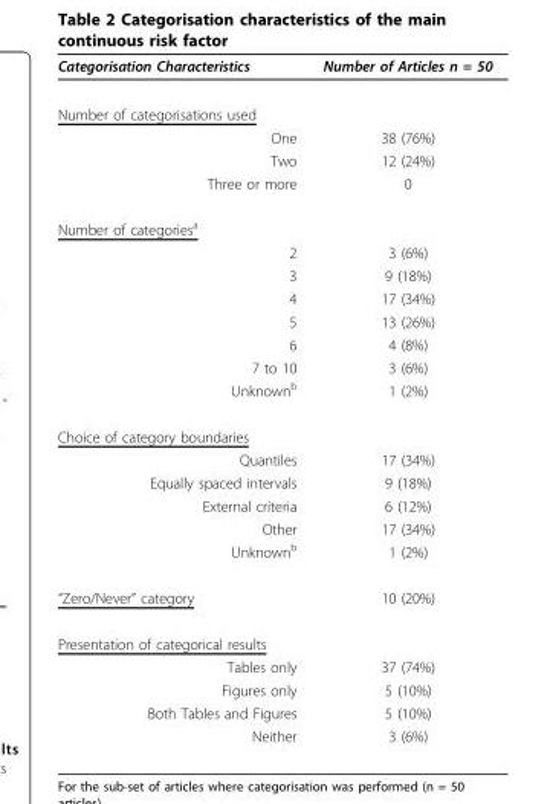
<table><thead><tr><td>Categorisation Characteristics</td><td>Number of Articles n = 50</td></tr></thead><tbody><tr><td colspan="2">Number of categorisations used</td></tr><tr><td>One</td><td>38 (76%)</td></tr><tr><td>Two</td><td>12 (24%)</td></tr><tr><td>Three or more</td><td>0</td></tr><tr><td colspan="2">Number of categories<sup>a</sup></td></tr><tr><td>2</td><td>3 (6%)</td></tr><tr><td>3</td><td>9 (18%)</td></tr><tr><td>4</td><td>17 (34%)</td></tr><tr><td>5</td><td>13 (26%)</td></tr><tr><td>6</td><td>4 (8%)</td></tr><tr><td>7 to 10</td><td>3 (6%)</td></tr><tr><td>Unknown<sup>b</sup></td><td>1 (2%)</td></tr><tr><td colspan="2">Choice of category boundaries</td></tr><tr><td>Quantiles</td><td>17 (34%)</td></tr><tr><td>Equally spaced intervals</td><td>9 (18%)</td></tr><tr><td>External criteria</td><td>6 (12%)</td></tr><tr><td>Other</td><td>17 (34%)</td></tr><tr><td>Unknown<sup>b</sup></td><td>1 (2%)</td></tr><tr><td>“Zero/Never” category</td><td>10 (20%)</td></tr><tr><td colspan="2">Presentation of categorical results</td></tr><tr><td>Tables only</td><td>37 (74%)</td></tr><tr><td>Figures only</td><td>5 (10%)</td></tr><tr><td>Both Tables and Figures</td><td>5 (10%)</td></tr><tr><td>Neither</td><td>3 (6%)</td></tr></tbody></table>